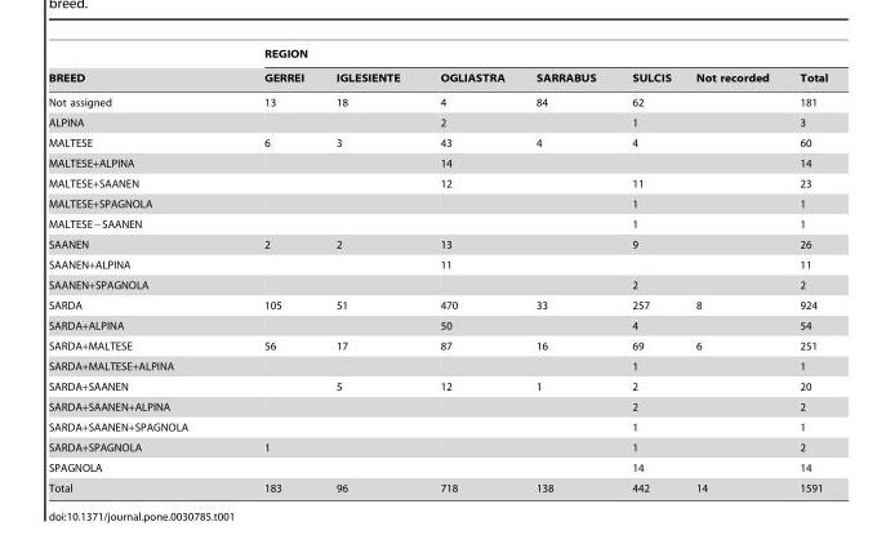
<table><thead><tr><td rowspan="2">BREED</td><td colspan="7">REGION</td></tr><tr><td>GERREI</td><td>IGLESIENTE</td><td>OGLIASTRA</td><td>SARRABUS</td><td>SULCIS</td><td>Not recorded</td><td>Total</td></tr></thead><tbody><tr><td>Not assigned</td><td>13</td><td>18</td><td>4</td><td>84</td><td>62</td><td></td><td>181</td></tr><tr><td>ALPINA</td><td></td><td></td><td>2</td><td></td><td>1</td><td></td><td>3</td></tr><tr><td>MALTESE</td><td>6</td><td>3</td><td>43</td><td>4</td><td>4</td><td></td><td>60</td></tr><tr><td>MALTESE+ALPINA</td><td></td><td></td><td>14</td><td></td><td></td><td></td><td>14</td></tr><tr><td>MALTESE+SAANEN</td><td></td><td></td><td>12</td><td></td><td>11</td><td></td><td>23</td></tr><tr><td>MALTESE+SPAGNOLA</td><td></td><td></td><td></td><td></td><td>1</td><td></td><td>1</td></tr><tr><td>MALTESE−SAANEN</td><td></td><td></td><td></td><td></td><td>1</td><td></td><td>1</td></tr><tr><td>SAANEN</td><td>2</td><td>2</td><td>13</td><td></td><td>9</td><td></td><td>26</td></tr><tr><td>SAANEN+ALPINA</td><td></td><td></td><td>11</td><td></td><td></td><td></td><td>11</td></tr><tr><td>SAANEN+SPAGNOLA</td><td></td><td></td><td></td><td></td><td>2</td><td></td><td>2</td></tr><tr><td>SARDA</td><td>105</td><td>51</td><td>470</td><td>33</td><td>257</td><td>8</td><td>924</td></tr><tr><td>SARDA+ALPINA</td><td></td><td></td><td>50</td><td></td><td>4</td><td></td><td>54</td></tr><tr><td>SARDA+MALTESE</td><td>56</td><td>17</td><td>87</td><td>16</td><td>69</td><td>6</td><td>251</td></tr><tr><td>SARDA+MALTESE+ALPINA</td><td></td><td></td><td></td><td></td><td>1</td><td></td><td>1</td></tr><tr><td>SARDA+SAANEN</td><td></td><td>5</td><td>12</td><td>1</td><td>2</td><td></td><td>20</td></tr><tr><td>SARDA+SAANEN+ALPINA</td><td></td><td></td><td></td><td></td><td>2</td><td></td><td>2</td></tr><tr><td>SARDA+SAANEN+SPAGNOLA</td><td></td><td></td><td></td><td></td><td>1</td><td></td><td>1</td></tr><tr><td>SARDA+SPAGNOLA</td><td>1</td><td></td><td></td><td></td><td>1</td><td></td><td>2</td></tr><tr><td>SPAGNOLA</td><td></td><td></td><td></td><td></td><td>14</td><td></td><td>14</td></tr><tr><td>Total</td><td>183</td><td>96</td><td>718</td><td>138</td><td>442</td><td>14</td><td>1591</td></tr></tbody></table>